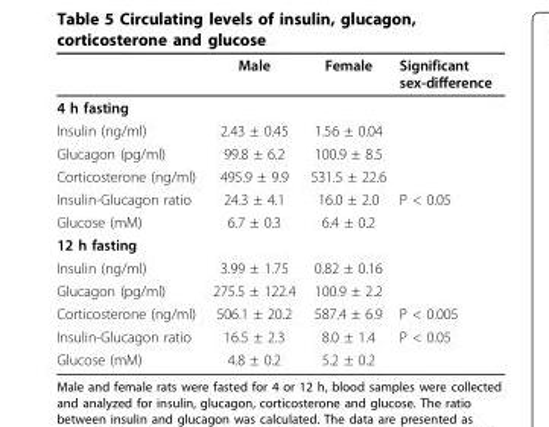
<table><thead><tr><td></td><td>Male</td><td>Female</td><td>Significant sex-difference</td></tr></thead><tbody><tr><td colspan="4">4 h fasting</td></tr><tr><td>Insulin (ng/ml)</td><td>2.43 ± 0.45</td><td>1.56 ± 0.04</td><td></td></tr><tr><td>Glucagon (pg/ml)</td><td>99.8 ± 6.2</td><td>100.9 ± 8.5</td><td></td></tr><tr><td>Corticosterone (ng/ml)</td><td>495.9 ± 9.9</td><td>531.5 ± 22.6</td><td></td></tr><tr><td>Insulin-Glucagon ratio</td><td>24.3 ± 4.1</td><td>16.0 ± 2.0</td><td>P &lt; 0.05</td></tr><tr><td>Glucose (mM)</td><td>6.7 ± 0.3</td><td>6.4 ± 0.2</td><td></td></tr><tr><td colspan="4">12 h fasting</td></tr><tr><td>Insulin (ng/ml)</td><td>3.99 ± 1.75</td><td>0.82 ± 0.16</td><td></td></tr><tr><td>Glucagon (pg/ml)</td><td>275.5 ± 122.4</td><td>100.9 ± 2.2</td><td></td></tr><tr><td>Corticosterone (ng/ml)</td><td>506.1 ± 20.2</td><td>587.4 ± 6.9</td><td>P &lt; 0.005</td></tr><tr><td>Insulin-Glucagon ratio</td><td>16.5 ± 2.3</td><td>8.0 ± 1.4</td><td>P &lt; 0.05</td></tr><tr><td>Glucose (mM)</td><td>4.8 ± 0.2</td><td>5.2 ± 0.2</td><td></td></tr></tbody></table>